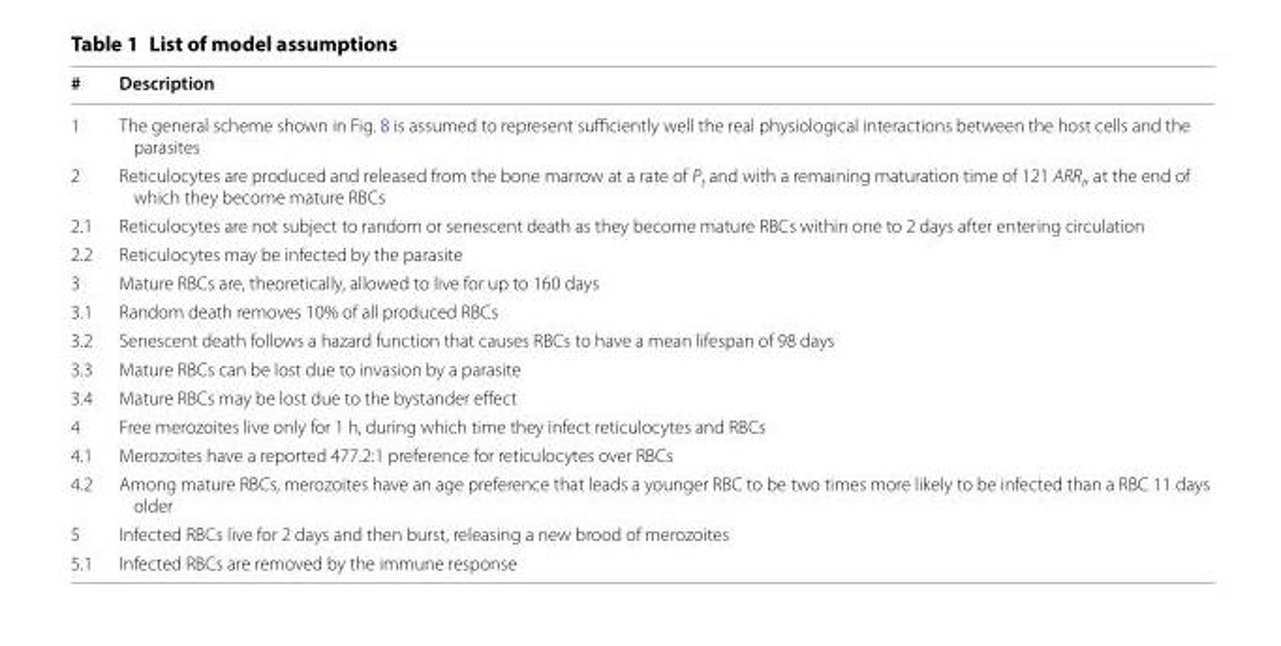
<table><thead><tr><td>#</td><td>Description</td></tr></thead><tbody><tr><td>1</td><td>The general scheme shown in Fig. 8 is assumed to represent sufficiently well the real physiological interactions between the host cells and the parasites</td></tr><tr><td>2</td><td>Reticulocytes are produced and released from the bone marrow at a rate of P<sub>t</sub> and with a remaining maturation time of 121 ARR <sub>t</sub>, at the end of which they become mature RBCs</td></tr><tr><td>2.1</td><td>Reticulocytes are not subject to random or senescent death as they become mature RBCs within one to 2 days after entering circulation</td></tr><tr><td>2.2</td><td>Reticulocytes may be infected by the parasite</td></tr><tr><td>3</td><td>Mature RBCs are, theoretically, allowed to live for up to 160 days</td></tr><tr><td>3.1</td><td>Random death removes 10% of all produced RBCs</td></tr><tr><td>3.2</td><td>Senescent death follows a hazard function that causes RBCs to have a mean lifespan of 98 days</td></tr><tr><td>3.3</td><td>Mature RBCs can be lost due to invasion by a parasite</td></tr><tr><td>3.4</td><td>Mature RBCs may be lost due to the bystander effect</td></tr><tr><td>4</td><td>Free merozoites live only for 1 h, during which time they infect reticulocytes and RBCs</td></tr><tr><td>4.1</td><td>Merozoites have a reported 477.2:1 preference for reticulocytes over RBCs</td></tr><tr><td>4.2</td><td>Among mature RBCs, merozoites have an age preference that leads a younger RBC to be two times more likely to be infected than a RBC 11 days older</td></tr><tr><td>5</td><td>Infected RBCs live for 2 days and then burst, releasing a new brood of merozoites</td></tr><tr><td>5.1</td><td>Infected RBCs are removed by the immune response</td></tr></tbody></table>